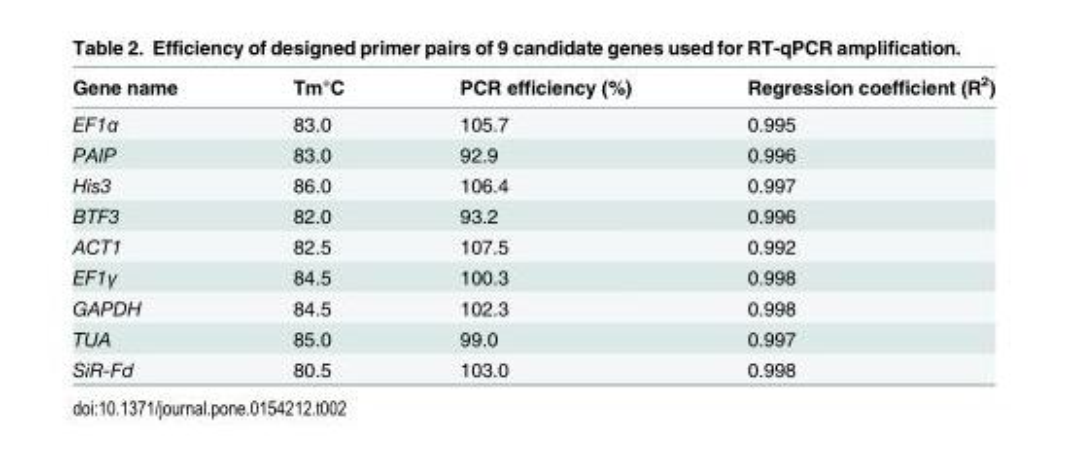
<table><thead><tr><td>Gene name</td><td>Tm°C</td><td>PCR efficiency (%)</td><td>Regression coefficient (R<sup>2</sup>)</td></tr></thead><tbody><tr><td>EF1α</td><td>83.0</td><td>105.7</td><td>0.995</td></tr><tr><td>PAIP</td><td>83.0</td><td>92.9</td><td>0.996</td></tr><tr><td>His3</td><td>86.0</td><td>106.4</td><td>0.997</td></tr><tr><td>BTF3</td><td>82.0</td><td>93.2</td><td>0.996</td></tr><tr><td>ACT1</td><td>82.5</td><td>107.5</td><td>0.992</td></tr><tr><td>EF1γ</td><td>84.5</td><td>100.3</td><td>0.998</td></tr><tr><td>GAPDH</td><td>84.5</td><td>102.3</td><td>0.998</td></tr><tr><td>TUA</td><td>85.0</td><td>99.0</td><td>0.997</td></tr><tr><td>SiR-Fd</td><td>80.5</td><td>103.0</td><td>0.998</td></tr></tbody></table>